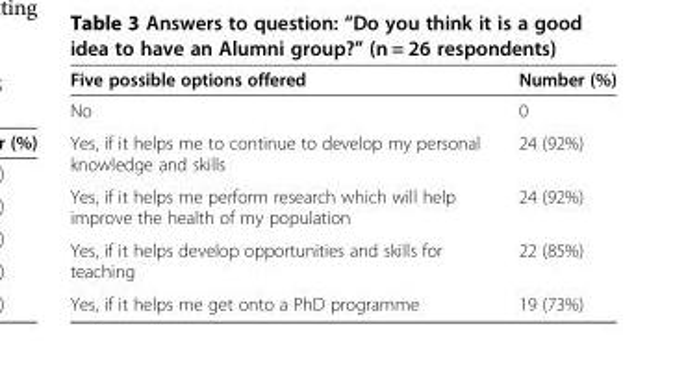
<table><thead><tr><td>Five possible options offered</td><td>Number (%)</td></tr></thead><tbody><tr><td>No</td><td>0</td></tr><tr><td>Yes, if it helps me to continue to develop my personal knowledge and skills</td><td>24 (92%)</td></tr><tr><td>Yes, if it helps me perform research which will help improve the health of my population</td><td>24 (92%)</td></tr><tr><td>Yes, if it helps develop opportunities and skills for teaching</td><td>22 (85%)</td></tr><tr><td>Yes, if it helps me get onto a PhD programme</td><td>19 (73%)</td></tr></tbody></table>